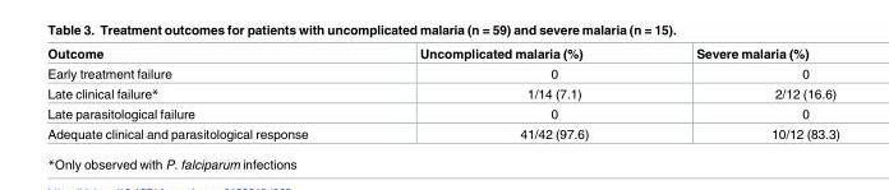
<table><thead><tr><td>Outcome</td><td>Uncomplicated malaria (%)</td><td>Severe malaria (%)</td></tr></thead><tbody><tr><td>Early treatment failure</td><td>0</td><td>0</td></tr><tr><td>Late clinical failure*</td><td>1/14 (7.1)</td><td>2/12 (16.6)</td></tr><tr><td>Late parasitological failure</td><td>0</td><td>0</td></tr><tr><td>Adequate clinical and parasitological response</td><td>41/42 (97.6)</td><td>10/12 (83.3)</td></tr></tbody></table>